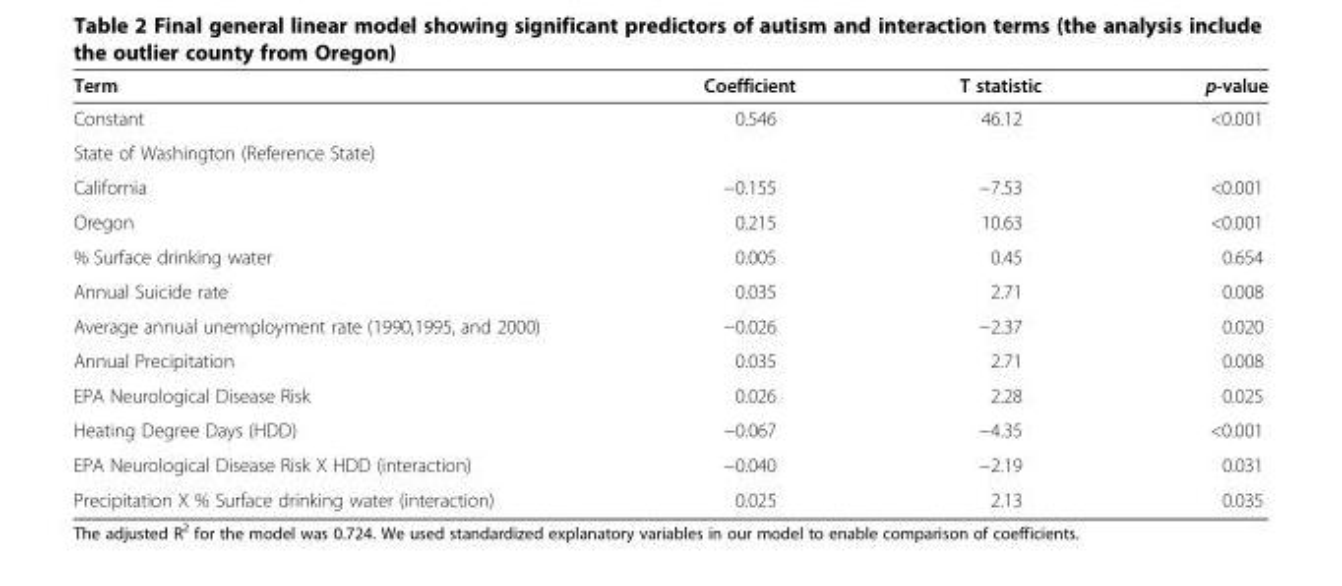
<table><thead><tr><td>Term</td><td>Coefficient</td><td>T statistic</td><td>p-value</td></tr></thead><tbody><tr><td>Constant</td><td>0.546</td><td>46.12</td><td>&lt;0.001</td></tr><tr><td colspan="4">State of Washington (Reference State)</td></tr><tr><td>California</td><td>−0.155</td><td>−7.53</td><td>&lt;0.001</td></tr><tr><td>Oregon</td><td>0.215</td><td>10.63</td><td>&lt;0.001</td></tr><tr><td>% Surface drinking water</td><td>0.005</td><td>0.45</td><td>0.654</td></tr><tr><td>Annual Suicide rate</td><td>0.035</td><td>2.71</td><td>0.008</td></tr><tr><td>Average annual unemployment rate (1990,1995, and 2000)</td><td>−0.026</td><td>−2.37</td><td>0.020</td></tr><tr><td>Annual Precipitation</td><td>0.035</td><td>2.71</td><td>0.008</td></tr><tr><td>EPA Neurological Disease Risk</td><td>0.026</td><td>2.28</td><td>0.025</td></tr><tr><td>Heating Degree Days (HDD)</td><td>−0.067</td><td>−4.35</td><td>&lt;0.001</td></tr><tr><td>EPA Neurological Disease Risk X HDD (interaction)</td><td>−0.040</td><td>−2.19</td><td>0.031</td></tr><tr><td>Precipitation X % Surface drinking water (interaction)</td><td>0.025</td><td>2.13</td><td>0.035</td></tr></tbody></table>